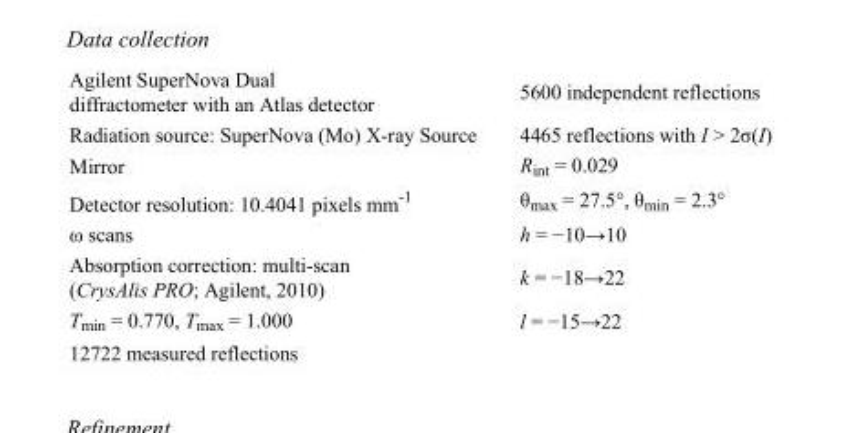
<table><tbody><tr><td>Agilent SuperNova Dual diffractometer with an Atlas detector</td><td>5600 independent reflections</td></tr><tr><td>Radiation source: SuperNova (Mo) X-ray Source</td><td>4465 reflections with I &gt; 2σ(I)</td></tr><tr><td>Mirror</td><td>R<sub>int</sub> = 0.029</td></tr><tr><td>Detector resolution: 10.4041 pixels mm<sup>-1</sup></td><td>θ<sub>max</sub> = 27.5°, θ<sub>min</sub> = 2.3°</td></tr><tr><td>ω scans</td><td>h = −10→10</td></tr><tr><td>Absorption correction: multi-scan (CrysAlis PRO; Agilent, 2010)</td><td>k = −18→22</td></tr><tr><td>T<sub>min</sub> = 0.770, T<sub>max</sub> = 1.000</td><td>l = −15→22</td></tr><tr><td>12722 measured reflections</td><td></td></tr></tbody></table>